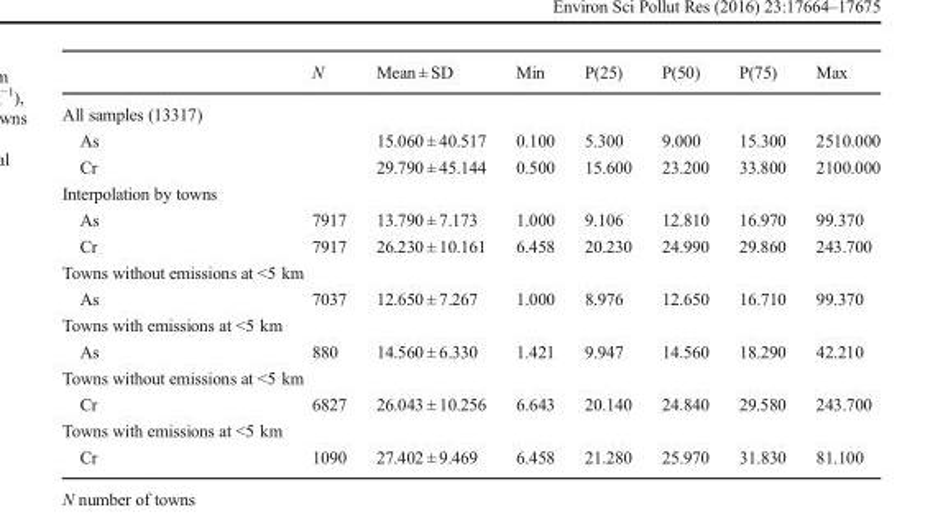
<table><thead><tr><td></td><td>N</td><td>Mean ± SD</td><td>Min</td><td>P(25)</td><td>P(50)</td><td>P(75)</td><td>Max</td></tr></thead><tbody><tr><td colspan="8">All samples (13317)</td></tr><tr><td>As</td><td></td><td>15.060 ± 40.517</td><td>0.100</td><td>5.300</td><td>9.000</td><td>15.300</td><td>2510.000</td></tr><tr><td>Cr</td><td></td><td>29.790 ± 45.144</td><td>0.500</td><td>15.600</td><td>23.200</td><td>33.800</td><td>2100.000</td></tr><tr><td colspan="8">Interpolation by towns</td></tr><tr><td>As</td><td>7917</td><td>13.790 ± 7.173</td><td>1.000</td><td>9.106</td><td>12.810</td><td>16.970</td><td>99.370</td></tr><tr><td>Cr</td><td>7917</td><td>26.230 ± 10.161</td><td>6.458</td><td>20.230</td><td>24.990</td><td>29.860</td><td>243.700</td></tr><tr><td colspan="8">Towns without emissions at &lt;5 km</td></tr><tr><td>As</td><td>7037</td><td>12.650 ± 7.267</td><td>1.000</td><td>8.976</td><td>12.650</td><td>16.710</td><td>99.370</td></tr><tr><td colspan="8">Towns with emissions at &lt;5 km</td></tr><tr><td>As</td><td>880</td><td>14.560 ± 6.330</td><td>1.421</td><td>9.947</td><td>14.560</td><td>18.290</td><td>42.210</td></tr><tr><td colspan="8">Towns without emissions at &lt;5 km</td></tr><tr><td>Cr</td><td>6827</td><td>26.043 ± 10.256</td><td>6.643</td><td>20.140</td><td>24.840</td><td>29.580</td><td>243.700</td></tr><tr><td colspan="8">Towns with emissions at &lt;5 km</td></tr><tr><td>Cr</td><td>1090</td><td>27.402 ± 9.469</td><td>6.458</td><td>21.280</td><td>25.970</td><td>31.830</td><td>81.100</td></tr></tbody></table>